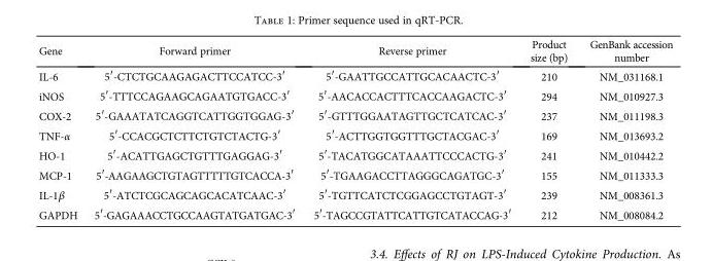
<table><thead><tr><td>Gene</td><td>Forward primer</td><td>Reverse primer</td><td>Product size (bp)</td><td>GenBank accession number</td></tr></thead><tbody><tr><td>IL-6</td><td>5′-CTCTGCAAGAGACTTCCATCC-3′</td><td>5′-GAATTGCCATTGCACAACTC-3′</td><td>210</td><td>NM_031168.1</td></tr><tr><td>iNOS</td><td>5′-TTTCCAGAAGCAGAATGTGACC-3′</td><td>5′-AACACCACTTTCACCAAGACTC-3′</td><td>294</td><td>NM_010927.3</td></tr><tr><td>COX-2</td><td>5′-GAAATATCAGGTCATTGGTGGAG-3′</td><td>5′-GTTTGGAATAGTTGCTCATCAC-3′</td><td>237</td><td>NM_011198.3</td></tr><tr><td>TNF-α</td><td>5′-CCACGCTCTTCTGTCTACTG-3′</td><td>5′-ACTTGGTGGTTTGCTACGAC-3′</td><td>169</td><td>NM_013693.2</td></tr><tr><td>HO-1</td><td>5′-ACATTGAGCTGTTTGAGGAG-3′</td><td>5′-TACATGGCATAAATTCCCACTG-3′</td><td>241</td><td>NM_010442.2</td></tr><tr><td>MCP-1</td><td>5′-AAGAAGCTGTAGTTTTTGTCACCA-3′</td><td>5′-TGAAGACCTTAGGGCAGATGC-3′</td><td>155</td><td>NM_011333.3</td></tr><tr><td>IL-1β</td><td>5′-ATCTCGCAGCAGCACATCAAC-3′</td><td>5′-TGTTCATCTCGGAGCCTGTAGT-3′</td><td>239</td><td>NM_008361.3</td></tr><tr><td>GAPDH</td><td>5′-GAGAAACCTGCCAAGTATGATGAC-3′</td><td>5′-TAGCCGTATTCATTGTCATACCAG-3′</td><td>212</td><td>NM_008084.2</td></tr></tbody></table>